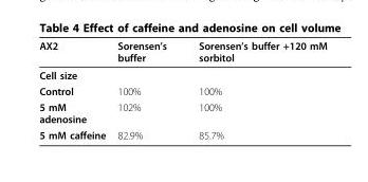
<table><thead><tr><td>AX2</td><td>Sorensen’s buffer</td><td>Sorensen’s buffer +120 mM sorbitol</td></tr></thead><tbody><tr><td colspan="3">Cell size</td></tr><tr><td>Control</td><td>100%</td><td>100%</td></tr><tr><td>5 mM adenosine</td><td>102%</td><td>100%</td></tr><tr><td>5 mM caffeine</td><td>82.9%</td><td>85.7%</td></tr></tbody></table>